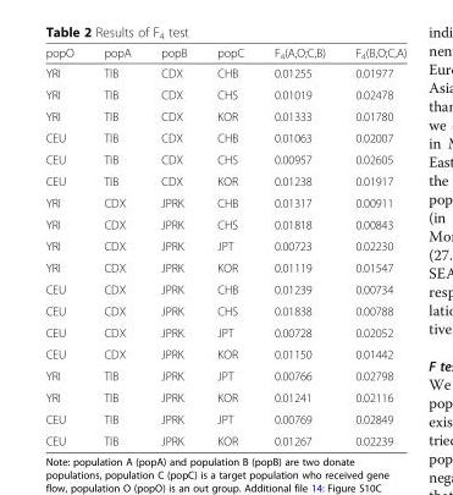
<table><thead><tr><td>popO</td><td>popA</td><td>popB</td><td>popC</td><td>F<sub>4</sub>(A,O;C,B)</td><td>F<sub>4</sub>(B,O;C,A)</td></tr></thead><tbody><tr><td>YRI</td><td>TIB</td><td>CDX</td><td>CHB</td><td>0.01255</td><td>0.01977</td></tr><tr><td>YRI</td><td>TIB</td><td>CDX</td><td>CHS</td><td>0.01019</td><td>0.02478</td></tr><tr><td>YRI</td><td>TIB</td><td>CDX</td><td>KOR</td><td>0.01333</td><td>0.01780</td></tr><tr><td>CEU</td><td>TIB</td><td>CDX</td><td>CHB</td><td>0.01063</td><td>0.02007</td></tr><tr><td>CEU</td><td>TIB</td><td>CDX</td><td>CHS</td><td>0.00957</td><td>0.02605</td></tr><tr><td>CEU</td><td>TIB</td><td>CDX</td><td>KOR</td><td>0.01238</td><td>0.01917</td></tr><tr><td>YRI</td><td>CDX</td><td>JPRK</td><td>CHB</td><td>0.01317</td><td>0.00911</td></tr><tr><td>YRI</td><td>CDX</td><td>JPRK</td><td>CHS</td><td>0.01818</td><td>0.00843</td></tr><tr><td>YRI</td><td>CDX</td><td>JPRK</td><td>JPT</td><td>0.00723</td><td>0.02230</td></tr><tr><td>YRI</td><td>CDX</td><td>JPRK</td><td>KOR</td><td>0.01119</td><td>0.01547</td></tr><tr><td>CEU</td><td>CDX</td><td>JPRK</td><td>CHB</td><td>0.01239</td><td>0.00734</td></tr><tr><td>CEU</td><td>CDX</td><td>JPRK</td><td>CHS</td><td>0.01838</td><td>0.00788</td></tr><tr><td>CEU</td><td>CDX</td><td>JPRK</td><td>JPT</td><td>0.00728</td><td>0.02052</td></tr><tr><td>CEU</td><td>CDX</td><td>JPRK</td><td>KOR</td><td>0.01150</td><td>0.01442</td></tr><tr><td>YRI</td><td>TIB</td><td>JPRK</td><td>JPT</td><td>0.00766</td><td>0.02798</td></tr><tr><td>YRI</td><td>TIB</td><td>JPRK</td><td>KOR</td><td>0.01241</td><td>0.02116</td></tr><tr><td>CEU</td><td>TIB</td><td>JPRK</td><td>JPT</td><td>0.00769</td><td>0.02849</td></tr><tr><td>CEU</td><td>TIB</td><td>JPRK</td><td>KOR</td><td>0.01267</td><td>0.02239</td></tr></tbody></table>